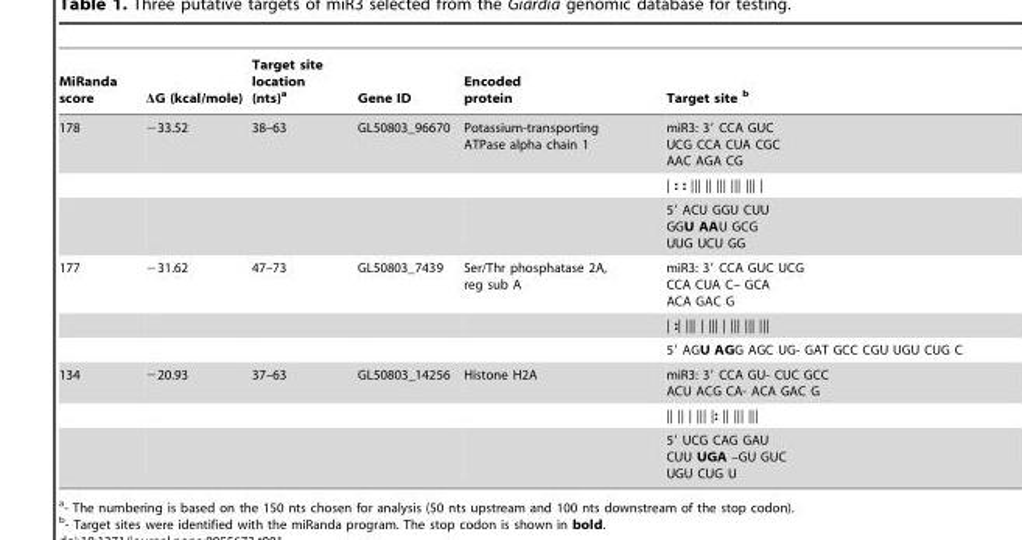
<table><thead><tr><td>MiRanda score</td><td>ΔG (kcal/mole)</td><td>Target site location (nts)<sup>a</sup></td><td>Gene ID</td><td>Encoded protein</td><td>Target site b</td></tr></thead><tbody><tr><td rowspan="3">178</td><td>−33.52</td><td>38–63</td><td>GL50803_96670</td><td>Potassium-transporting ATPase alpha chain 1</td><td>miR3: 3′ CCA GUC UCG CCA CUA CGC AAC AGA CG</td></tr><tr><td></td><td></td><td></td><td></td><td>| : : ||| || ||| ||| ||| |</td></tr><tr><td></td><td></td><td></td><td></td><td>5′ ACU GGU CUU GGU AAU GCG UUG UCU GG</td></tr><tr><td rowspan="3">177</td><td>−31.62</td><td>47–73</td><td>GL50803_7439</td><td>Ser/Thr phosphatase 2A, reg sub A</td><td>miR3: 3′ CCA GUC UCG CCA CUA C– GCA ACA GAC G</td></tr><tr><td></td><td></td><td></td><td></td><td>| :| ||| | ||| | ||| ||| |||</td></tr><tr><td></td><td></td><td></td><td></td><td>5′ AGU AGG AGC UG- GAT GCC CGU UGU CUG C</td></tr><tr><td rowspan="3">134</td><td>−20.93</td><td>37–63</td><td>GL50803_14256</td><td>Histone H2A</td><td>miR3: 3′ CCA GU- CUC GCC ACU ACG CA- ACA GAC G</td></tr><tr><td></td><td></td><td></td><td></td><td>|| || | ||| |: || ||| |||</td></tr><tr><td></td><td></td><td></td><td></td><td>5′ UCG CAG GAU CUU UGA –GU GUC UGU CUG U</td></tr></tbody></table>